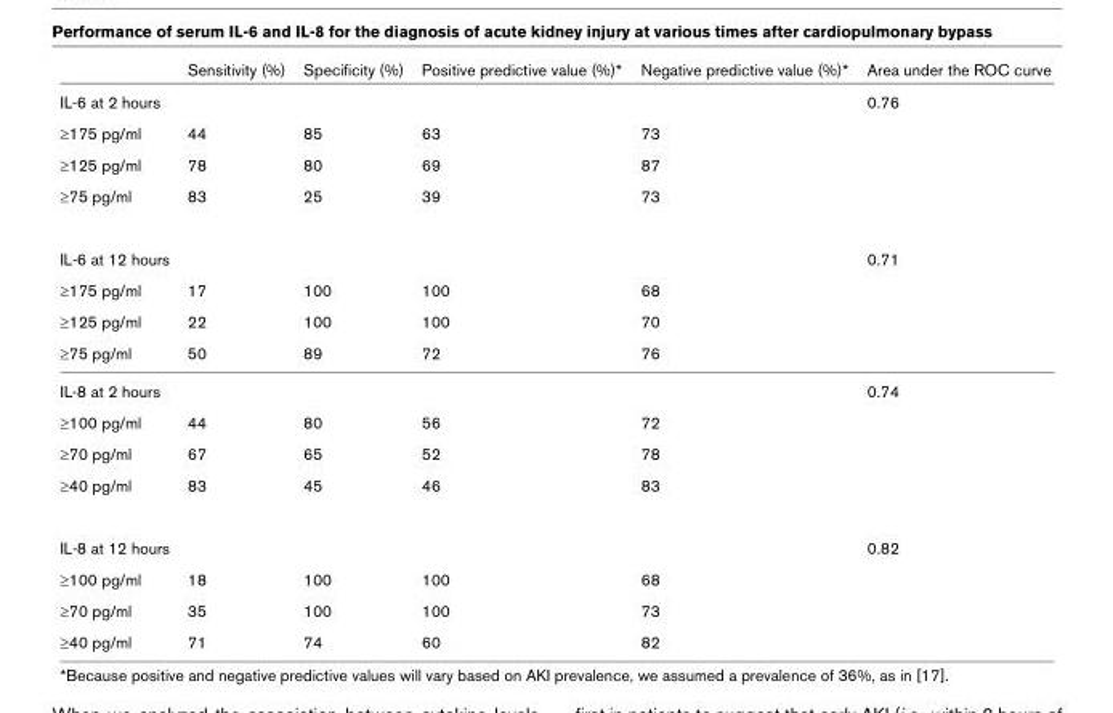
<table><thead><tr><td></td><td>Sensitivity (%)</td><td>Specificity (%)</td><td>Positive predictive value (%)*</td><td>Negative predictive value (%)*</td><td>Area under the ROC curve</td></tr></thead><tbody><tr><td>IL-6 at 2 hours</td><td></td><td></td><td></td><td></td><td>0.76</td></tr><tr><td>≥175 pg/ml</td><td>44</td><td>85</td><td>63</td><td>73</td><td></td></tr><tr><td>≥125 pg/ml</td><td>78</td><td>80</td><td>69</td><td>87</td><td></td></tr><tr><td>≥75 pg/ml</td><td>83</td><td>25</td><td>39</td><td>73</td><td></td></tr><tr><td>IL-6 at 12 hours</td><td></td><td></td><td></td><td></td><td>0.71</td></tr><tr><td>≥175 pg/ml</td><td>17</td><td>100</td><td>100</td><td>68</td><td></td></tr><tr><td>≥125 pg/ml</td><td>22</td><td>100</td><td>100</td><td>70</td><td></td></tr><tr><td>≥75 pg/ml</td><td>50</td><td>89</td><td>72</td><td>76</td><td></td></tr><tr><td>IL-8 at 2 hours</td><td></td><td></td><td></td><td></td><td>0.74</td></tr><tr><td>≥100 pg/ml</td><td>44</td><td>80</td><td>56</td><td>72</td><td></td></tr><tr><td>≥70 pg/ml</td><td>67</td><td>65</td><td>52</td><td>78</td><td></td></tr><tr><td>≥40 pg/ml</td><td>83</td><td>45</td><td>46</td><td>83</td><td></td></tr><tr><td>IL-8 at 12 hours</td><td></td><td></td><td></td><td></td><td>0.82</td></tr><tr><td>≥100 pg/ml</td><td>18</td><td>100</td><td>100</td><td>68</td><td></td></tr><tr><td>≥70 pg/ml</td><td>35</td><td>100</td><td>100</td><td>73</td><td></td></tr><tr><td>≥40 pg/ml</td><td>71</td><td>74</td><td>60</td><td>82</td><td></td></tr></tbody></table>